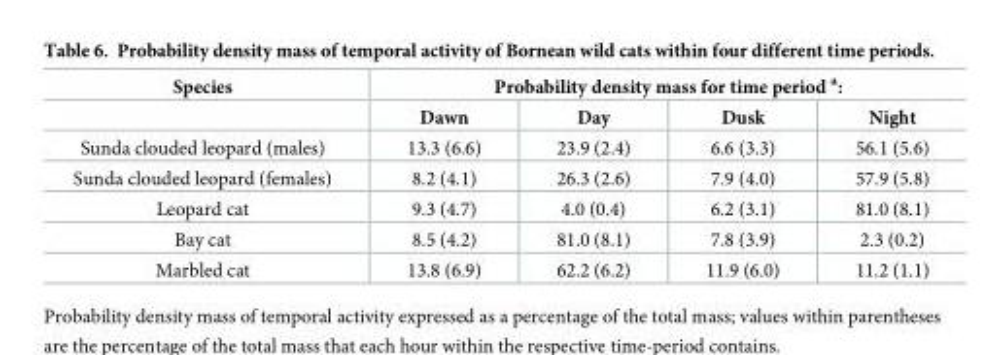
<table><thead><tr><td rowspan="2">Species</td><td colspan="4">Probability density mass for time period <sup>a</sup>:</td></tr><tr><td>Dawn</td><td>Day</td><td>Dusk</td><td>Night</td></tr></thead><tbody><tr><td>Sunda clouded leopard (males)</td><td>13.3 (6.6)</td><td>23.9 (2.4)</td><td>6.6 (3.3)</td><td>56.1 (5.6)</td></tr><tr><td>Sunda clouded leopard (females)</td><td>8.2 (4.1)</td><td>26.3 (2.6)</td><td>7.9 (4.0)</td><td>57.9 (5.8)</td></tr><tr><td>Leopard cat</td><td>9.3 (4.7)</td><td>4.0 (0.4)</td><td>6.2 (3.1)</td><td>81.0 (8.1)</td></tr><tr><td>Bay cat</td><td>8.5 (4.2)</td><td>81.0 (8.1)</td><td>7.8 (3.9)</td><td>2.3 (0.2)</td></tr><tr><td>Marbled cat</td><td>13.8 (6.9)</td><td>62.2 (6.2)</td><td>11.9 (6.0)</td><td>11.2 (1.1)</td></tr></tbody></table>